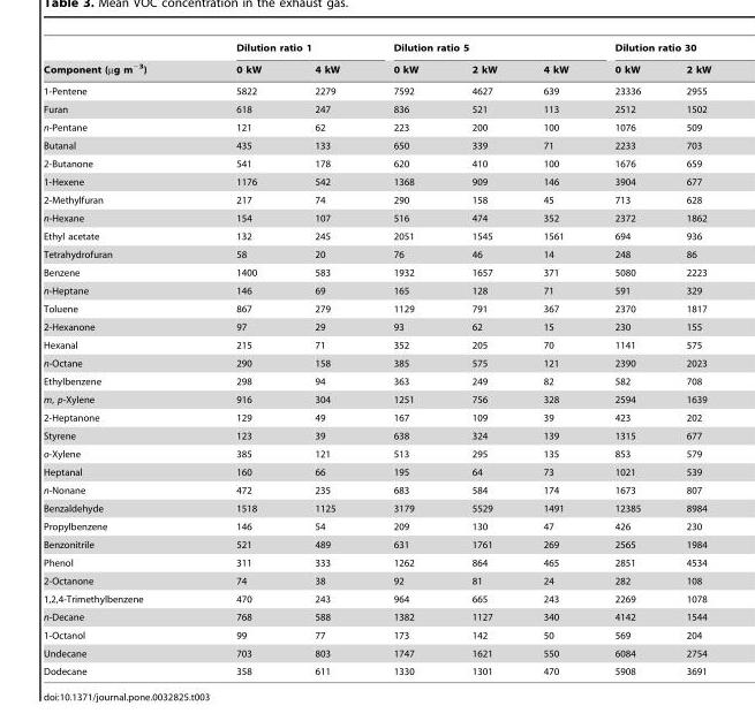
<table><thead><tr><td rowspan="2">Component (µg m<sup>−3</sup>)</td><td colspan="2">Dilution ratio 1</td><td colspan="3">Dilution ratio 5</td><td colspan="2">Dilution ratio 30</td></tr><tr><td>0 kW</td><td>4 kW</td><td>0 kW</td><td>2 kW</td><td>4 kW</td><td>0 kW</td><td>2 kW</td></tr></thead><tbody><tr><td>1-Pentene</td><td>5822</td><td>2279</td><td>7592</td><td>4627</td><td>639</td><td>23336</td><td>2955</td></tr><tr><td>Furan</td><td>618</td><td>247</td><td>836</td><td>521</td><td>113</td><td>2512</td><td>1502</td></tr><tr><td>n-Pentane</td><td>121</td><td>62</td><td>223</td><td>200</td><td>100</td><td>1076</td><td>509</td></tr><tr><td>Butanal</td><td>435</td><td>133</td><td>650</td><td>339</td><td>71</td><td>2233</td><td>703</td></tr><tr><td>2-Butanone</td><td>541</td><td>178</td><td>620</td><td>410</td><td>100</td><td>1676</td><td>659</td></tr><tr><td>1-Hexene</td><td>1176</td><td>542</td><td>1368</td><td>909</td><td>146</td><td>3904</td><td>677</td></tr><tr><td>2-Methylfuran</td><td>217</td><td>74</td><td>290</td><td>158</td><td>45</td><td>713</td><td>628</td></tr><tr><td>n-Hexane</td><td>154</td><td>107</td><td>516</td><td>474</td><td>352</td><td>2372</td><td>1862</td></tr><tr><td>Ethyl acetate</td><td>132</td><td>245</td><td>2051</td><td>1545</td><td>1561</td><td>694</td><td>936</td></tr><tr><td>Tetrahydrofuran</td><td>58</td><td>20</td><td>76</td><td>46</td><td>14</td><td>248</td><td>86</td></tr><tr><td>Benzene</td><td>1400</td><td>583</td><td>1932</td><td>1657</td><td>371</td><td>5080</td><td>2223</td></tr><tr><td>n-Heptane</td><td>146</td><td>69</td><td>165</td><td>128</td><td>71</td><td>591</td><td>329</td></tr><tr><td>Toluene</td><td>867</td><td>279</td><td>1129</td><td>791</td><td>367</td><td>2370</td><td>1817</td></tr><tr><td>2-Hexanone</td><td>97</td><td>29</td><td>93</td><td>62</td><td>15</td><td>230</td><td>155</td></tr><tr><td>Hexanal</td><td>215</td><td>71</td><td>352</td><td>205</td><td>70</td><td>1141</td><td>575</td></tr><tr><td>n-Octane</td><td>290</td><td>158</td><td>385</td><td>575</td><td>121</td><td>2390</td><td>2023</td></tr><tr><td>Ethylbenzene</td><td>298</td><td>94</td><td>363</td><td>249</td><td>82</td><td>582</td><td>708</td></tr><tr><td>m, p-Xylene</td><td>916</td><td>304</td><td>1251</td><td>756</td><td>328</td><td>2594</td><td>1639</td></tr><tr><td>2-Heptanone</td><td>129</td><td>49</td><td>167</td><td>109</td><td>39</td><td>423</td><td>202</td></tr><tr><td>Styrene</td><td>123</td><td>39</td><td>638</td><td>324</td><td>139</td><td>1315</td><td>677</td></tr><tr><td>o-Xylene</td><td>385</td><td>121</td><td>513</td><td>295</td><td>135</td><td>853</td><td>579</td></tr><tr><td>Heptanal</td><td>160</td><td>66</td><td>195</td><td>64</td><td>73</td><td>1021</td><td>539</td></tr><tr><td>n-Nonane</td><td>472</td><td>235</td><td>683</td><td>584</td><td>174</td><td>1673</td><td>807</td></tr><tr><td>Benzaldehyde</td><td>1518</td><td>1125</td><td>3179</td><td>5529</td><td>1491</td><td>12385</td><td>8984</td></tr><tr><td>Propylbenzene</td><td>146</td><td>54</td><td>209</td><td>130</td><td>47</td><td>426</td><td>230</td></tr><tr><td>Benzonitrile</td><td>521</td><td>489</td><td>631</td><td>1761</td><td>269</td><td>2565</td><td>1984</td></tr><tr><td>Phenol</td><td>311</td><td>333</td><td>1262</td><td>864</td><td>465</td><td>2851</td><td>4534</td></tr><tr><td>2-Octanone</td><td>74</td><td>38</td><td>92</td><td>81</td><td>24</td><td>282</td><td>108</td></tr><tr><td>1,2,4-Trimethylbenzene</td><td>470</td><td>243</td><td>964</td><td>665</td><td>243</td><td>2269</td><td>1078</td></tr><tr><td>n-Decane</td><td>768</td><td>588</td><td>1382</td><td>1127</td><td>340</td><td>4142</td><td>1544</td></tr><tr><td>1-Octanol</td><td>99</td><td>77</td><td>173</td><td>142</td><td>50</td><td>569</td><td>204</td></tr><tr><td>Undecane</td><td>703</td><td>803</td><td>1747</td><td>1621</td><td>550</td><td>6084</td><td>2754</td></tr><tr><td>Dodecane</td><td>358</td><td>611</td><td>1330</td><td>1301</td><td>470</td><td>5908</td><td>3691</td></tr></tbody></table>